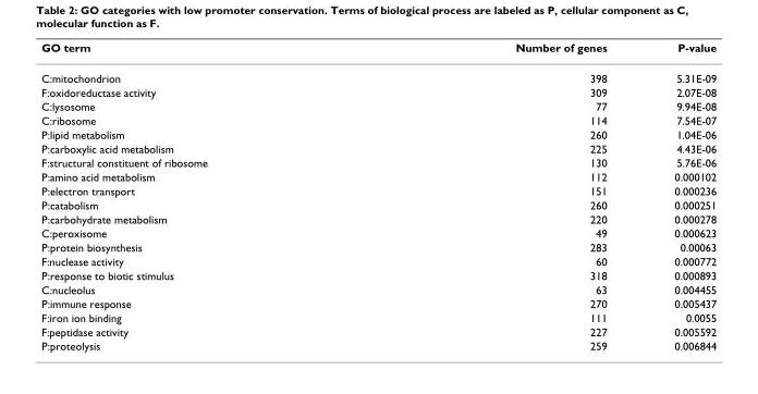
<table><thead><tr><td>GO term</td><td>Number of genes</td><td>P-value</td></tr></thead><tbody><tr><td>C:mitochondrion</td><td>398</td><td>5.31E-09</td></tr><tr><td>F:oxidoreductase activity</td><td>309</td><td>2.07E-08</td></tr><tr><td>C:lysosome</td><td>77</td><td>9.94E-08</td></tr><tr><td>C:ribosome</td><td>114</td><td>7.54E-07</td></tr><tr><td>P:lipid metabolism</td><td>260</td><td>1.04E-06</td></tr><tr><td>P:carboxylic acid metabolism</td><td>225</td><td>4.43E-06</td></tr><tr><td>F:structural constituent of ribosome</td><td>130</td><td>5.76E-06</td></tr><tr><td>P:amino acid metabolism</td><td>112</td><td>0.000102</td></tr><tr><td>P:electron transport</td><td>151</td><td>0.000236</td></tr><tr><td>P:catabolism</td><td>260</td><td>0.000251</td></tr><tr><td>P:carbohydrate metabolism</td><td>220</td><td>0.000278</td></tr><tr><td>C:peroxisome</td><td>49</td><td>0.000623</td></tr><tr><td>P:protein biosynthesis</td><td>283</td><td>0.00063</td></tr><tr><td>F:nuclease activity</td><td>60</td><td>0.000772</td></tr><tr><td>P:response to biotic stimulus</td><td>318</td><td>0.000893</td></tr><tr><td>C:nucleolus</td><td>63</td><td>0.004455</td></tr><tr><td>P:immune response</td><td>270</td><td>0.005437</td></tr><tr><td>F:iron ion binding</td><td>111</td><td>0.0055</td></tr><tr><td>F:peptidase activity</td><td>227</td><td>0.005592</td></tr><tr><td>P:proteolysis</td><td>259</td><td>0.006844</td></tr></tbody></table>